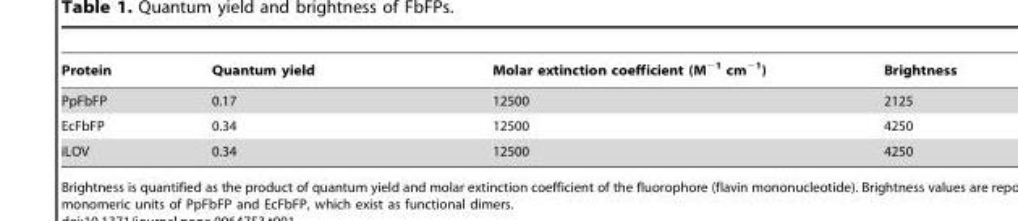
<table><thead><tr><td>Protein</td><td>Quantum yield</td><td>Molar extinction coefficient (M<sup>−1</sup> cm<sup>−1</sup>)</td><td>Brightness</td></tr></thead><tbody><tr><td>PpFbFP</td><td>0.17</td><td>12500</td><td>2125</td></tr><tr><td>EcFbFP</td><td>0.34</td><td>12500</td><td>4250</td></tr><tr><td>iLOV</td><td>0.34</td><td>12500</td><td>4250</td></tr></tbody></table>